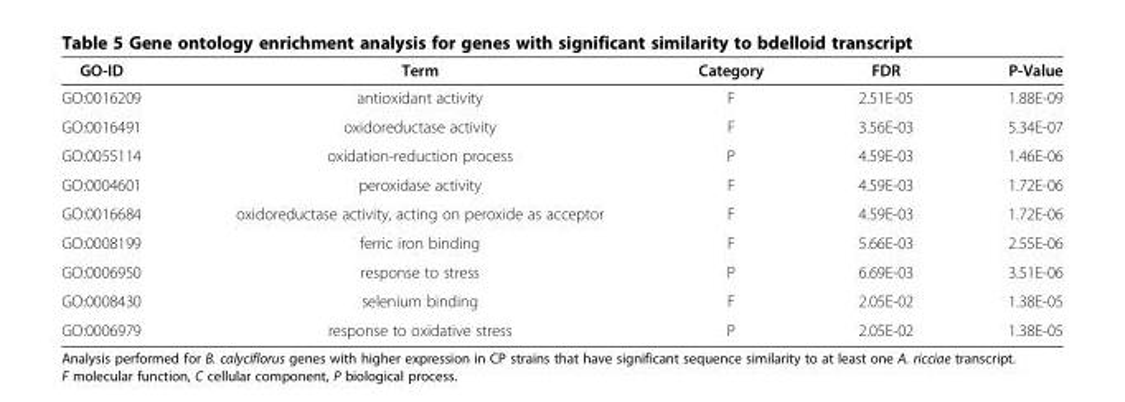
<table><thead><tr><td>GO-ID</td><td>Term</td><td>Category</td><td>FDR</td><td>P-Value</td></tr></thead><tbody><tr><td>GO:0016209</td><td>antioxidant activity</td><td>F</td><td>2.51E-05</td><td>1.88E-09</td></tr><tr><td>GO:0016491</td><td>oxidoreductase activity</td><td>F</td><td>3.56E-03</td><td>5.34E-07</td></tr><tr><td>GO:0055114</td><td>oxidation-reduction process</td><td>P</td><td>4.59E-03</td><td>1.46E-06</td></tr><tr><td>GO:0004601</td><td>peroxidase activity</td><td>F</td><td>4.59E-03</td><td>1.72E-06</td></tr><tr><td>GO:0016684</td><td>oxidoreductase activity, acting on peroxide as acceptor</td><td>F</td><td>4.59E-03</td><td>1.72E-06</td></tr><tr><td>GO:0008199</td><td>ferric iron binding</td><td>F</td><td>5.66E-03</td><td>2.55E-06</td></tr><tr><td>GO:0006950</td><td>response to stress</td><td>P</td><td>6.69E-03</td><td>3.51E-06</td></tr><tr><td>GO:0008430</td><td>selenium binding</td><td>F</td><td>2.05E-02</td><td>1.38E-05</td></tr><tr><td>GO:0006979</td><td>response to oxidative stress</td><td>P</td><td>2.05E-02</td><td>1.38E-05</td></tr></tbody></table>